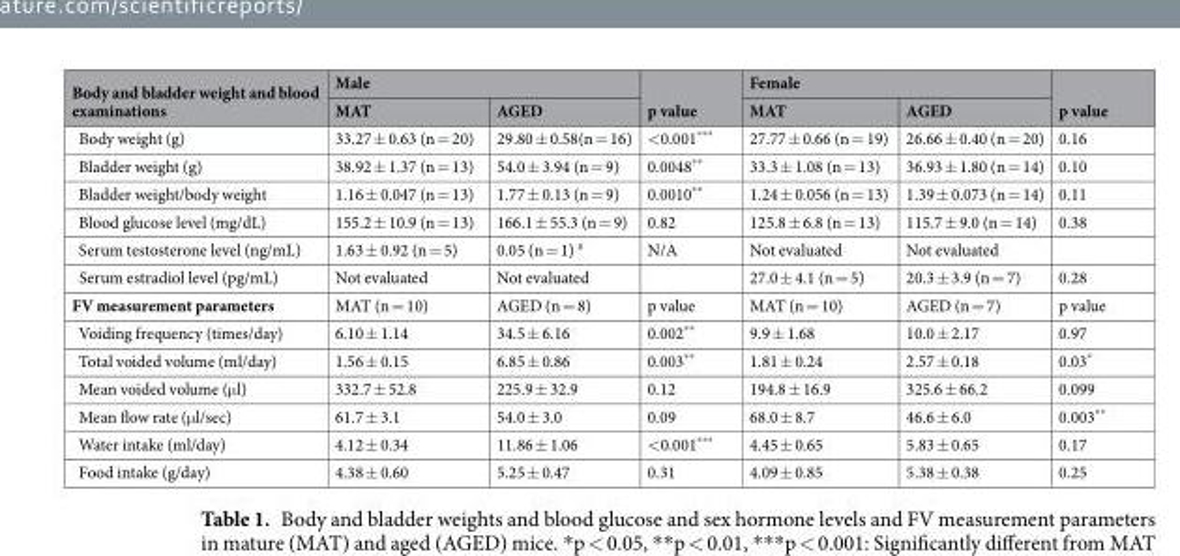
<table><thead><tr><td rowspan="2">Body and bladder weight and blood examinations</td><td colspan="2">Male</td><td rowspan="2">p value</td><td colspan="2">Female</td><td rowspan="2">p value</td></tr><tr><td>MAT</td><td>AGED</td><td>MAT</td><td>AGED</td></tr></thead><tbody><tr><td>Body weight (g)</td><td>33.27 ± 0.63 (n = 20)</td><td>29.80 ± 0.58(n = 16)</td><td>&lt;0.001***</td><td>27.77 ± 0.66 (n = 19)</td><td>26.66 ± 0.40 (n = 20)</td><td>0.16</td></tr><tr><td>Bladder weight (g)</td><td>38.92 ± 1.37 (n = 13)</td><td>54.0 ± 3.94 (n = 9)</td><td>0.0048**</td><td>33.3 ± 1.08 (n = 13)</td><td>36.93 ± 1.80 (n = 14)</td><td>0.10</td></tr><tr><td>Bladder weight/body weight</td><td>1.16 ± 0.047 (n = 13)</td><td>1.77 ± 0.13 (n = 9)</td><td>0.0010**</td><td>1.24 ± 0.056 (n = 13)</td><td>1.39 ± 0.073 (n = 14)</td><td>0.11</td></tr><tr><td>Blood glucose level (mg/dL)</td><td>155.2 ± 10.9 (n = 13)</td><td>166.1 ± 55.3 (n = 9)</td><td>0.82</td><td>125.8 ± 6.8 (n = 13)</td><td>115.7 ± 9.0 (n = 14)</td><td>0.38</td></tr><tr><td>Serum testosterone level (ng/mL)</td><td>1.63 ± 0.92 (n = 5)</td><td>0.05 (n = 1) <sup>#</sup></td><td>N/A</td><td>Not evaluated</td><td>Not evaluated</td><td></td></tr><tr><td>Serum estradiol level (pg/mL)</td><td>Not evaluated</td><td>Not evaluated</td><td></td><td>27.0 ± 4.1 (n = 5)</td><td>20.3 ± 3.9 (n = 7)</td><td>0.28</td></tr><tr><td>FV measurement parameters</td><td>MAT (n = 10)</td><td>AGED (n = 8)</td><td>p value</td><td>MAT (n = 10)</td><td>AGED (n = 7)</td><td>p value</td></tr><tr><td>Voiding frequency (times/day)</td><td>6.10 ± 1.14</td><td>34.5 ± 6.16</td><td>0.002**</td><td>9.9 ± 1.68</td><td>10.0 ± 2.17</td><td>0.97</td></tr><tr><td>Total voided volume (ml/day)</td><td>1.56 ± 0.15</td><td>6.85 ± 0.86</td><td>0.003**</td><td>1.81 ± 0.24</td><td>2.57 ± 0.18</td><td>0.03*</td></tr><tr><td>Mean voided volume (μl)</td><td>332.7 ± 52.8</td><td>225.9 ± 32.9</td><td>0.12</td><td>194.8 ± 16.9</td><td>325.6 ± 66.2</td><td>0.099</td></tr><tr><td>Mean flow rate (μl/sec)</td><td>61.7 ± 3.1</td><td>54.0 ± 3.0</td><td>0.09</td><td>68.0 ± 8.7</td><td>46.6 ± 6.0</td><td>0.003**</td></tr><tr><td>Water intake (ml/day)</td><td>4.12 ± 0.34</td><td>11.86 ± 1.06</td><td>&lt;0.001***</td><td>4.45 ± 0.65</td><td>5.83 ± 0.65</td><td>0.17</td></tr><tr><td>Food intake (g/day)</td><td>4.38 ± 0.60</td><td>5.25 ± 0.47</td><td>0.31</td><td>4.09 ± 0.85</td><td>5.38 ± 0.38</td><td>0.25</td></tr></tbody></table>